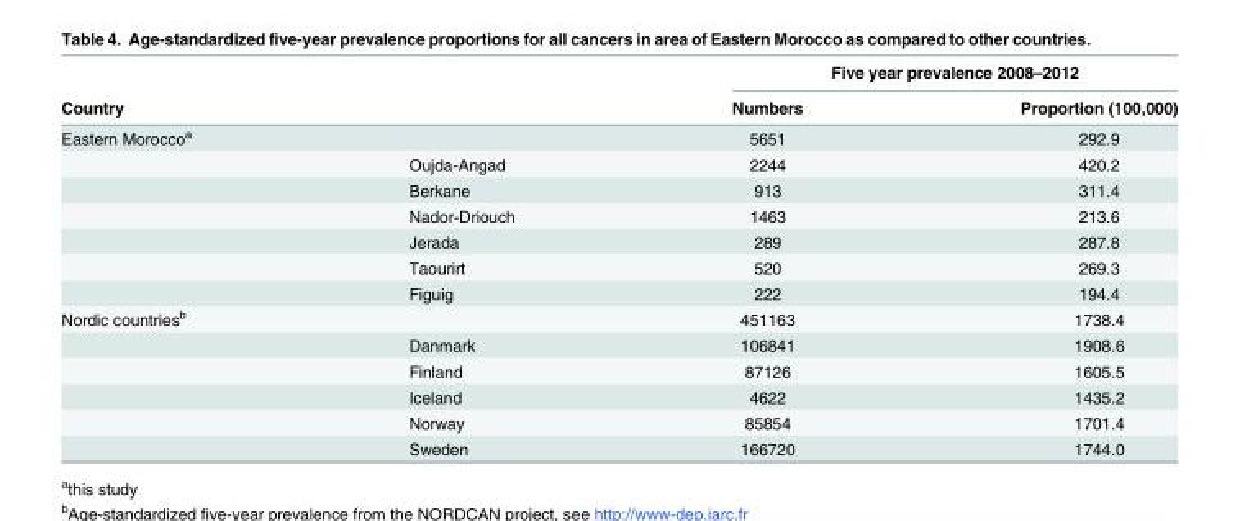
<table><thead><tr><td rowspan="2">Country</td><td rowspan="2"></td><td colspan="2">Five year prevalence 2008–2012</td></tr><tr><td>Numbers</td><td>Proportion (100,000)</td></tr></thead><tbody><tr><td rowspan="7">Eastern Morocco<sup>a</sup></td><td></td><td>5651</td><td>292.9</td></tr><tr><td>Oujda-Angad</td><td>2244</td><td>420.2</td></tr><tr><td>Berkane</td><td>913</td><td>311.4</td></tr><tr><td>Nador-Driouch</td><td>1463</td><td>213.6</td></tr><tr><td>Jerada</td><td>289</td><td>287.8</td></tr><tr><td>Taourirt</td><td>520</td><td>269.3</td></tr><tr><td>Figuig</td><td>222</td><td>194.4</td></tr><tr><td rowspan="6">Nordic countries<sup>b</sup></td><td></td><td>451163</td><td>1738.4</td></tr><tr><td>Danmark</td><td>106841</td><td>1908.6</td></tr><tr><td>Finland</td><td>87126</td><td>1605.5</td></tr><tr><td>Iceland</td><td>4622</td><td>1435.2</td></tr><tr><td>Norway</td><td>85854</td><td>1701.4</td></tr><tr><td>Sweden</td><td>166720</td><td>1744.0</td></tr></tbody></table>